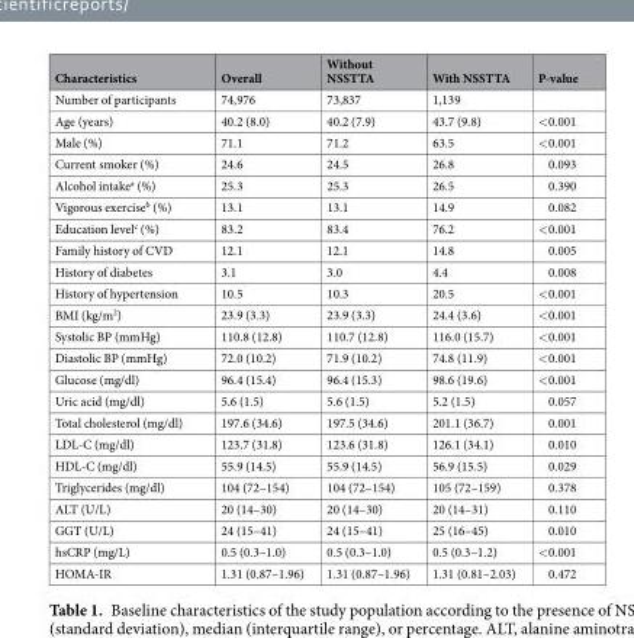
<table><thead><tr><td>Characteristics</td><td>Overall</td><td>Without NSSTTA</td><td>With NSSTTA</td><td>P-value</td></tr></thead><tbody><tr><td>Number of participants</td><td>74,976</td><td>73,837</td><td>1,139</td><td></td></tr><tr><td>Age (years)</td><td>40.2 (8.0)</td><td>40.2 (7.9)</td><td>43.7 (9.8)</td><td>&lt;0.001</td></tr><tr><td>Male (%)</td><td>71.1</td><td>71.2</td><td>63.5</td><td>&lt;0.001</td></tr><tr><td>Current smoker (%)</td><td>24.6</td><td>24.5</td><td>26.8</td><td>0.093</td></tr><tr><td>Alcohol intake<sup>a</sup> (%)</td><td>25.3</td><td>25.3</td><td>26.5</td><td>0.390</td></tr><tr><td>Vigorous exercise<sup>b</sup> (%)</td><td>13.1</td><td>13.1</td><td>14.9</td><td>0.082</td></tr><tr><td>Education level<sup>c</sup> (%)</td><td>83.2</td><td>83.4</td><td>76.2</td><td>&lt;0.001</td></tr><tr><td>Family history of CVD</td><td>12.1</td><td>12.1</td><td>14.8</td><td>0.005</td></tr><tr><td>History of diabetes</td><td>3.1</td><td>3.0</td><td>4.4</td><td>0.008</td></tr><tr><td>History of hypertension</td><td>10.5</td><td>10.3</td><td>20.5</td><td>&lt;0.001</td></tr><tr><td>BMI (kg/m<sup>2</sup>)</td><td>23.9 (3.3)</td><td>23.9 (3.3)</td><td>24.4 (3.6)</td><td>&lt;0.001</td></tr><tr><td>Systolic BP (mmHg)</td><td>110.8 (12.8)</td><td>110.7 (12.8)</td><td>116.0 (15.7)</td><td>&lt;0.001</td></tr><tr><td>Diastolic BP (mmHg)</td><td>72.0 (10.2)</td><td>71.9 (10.2)</td><td>74.8 (11.9)</td><td>&lt;0.001</td></tr><tr><td>Glucose (mg/dl)</td><td>96.4 (15.4)</td><td>96.4 (15.3)</td><td>98.6 (19.6)</td><td>&lt;0.001</td></tr><tr><td>Uric acid (mg/dl)</td><td>5.6 (1.5)</td><td>5.6 (1.5)</td><td>5.2 (1.5)</td><td>0.057</td></tr><tr><td>Total cholesterol (mg/dl)</td><td>197.6 (34.6)</td><td>197.5 (34.6)</td><td>201.1 (36.7)</td><td>0.001</td></tr><tr><td>LDL-C (mg/dl)</td><td>123.7 (31.8)</td><td>123.6 (31.8)</td><td>126.1 (34.1)</td><td>0.010</td></tr><tr><td>HDL-C (mg/dl)</td><td>55.9 (14.5)</td><td>55.9 (14.5)</td><td>56.9 (15.5)</td><td>0.029</td></tr><tr><td>Triglycerides (mg/dl)</td><td>104 (72–154)</td><td>104 (72–154)</td><td>105 (72–159)</td><td>0.378</td></tr><tr><td>ALT (U/L)</td><td>20 (14–30)</td><td>20 (14–30)</td><td>20 (14–31)</td><td>0.110</td></tr><tr><td>GGT (U/L)</td><td>24 (15–41)</td><td>24 (15–41)</td><td>25 (16–45)</td><td>0.010</td></tr><tr><td>hsCRP (mg/L)</td><td>0.5 (0.3–1.0)</td><td>0.5 (0.3–1.0)</td><td>0.5 (0.3–1.2)</td><td>&lt;0.001</td></tr><tr><td>HOMA-IR</td><td>1.31 (0.87–1.96)</td><td>1.31 (0.87–1.96)</td><td>1.31 (0.81–2.03)</td><td>0.472</td></tr></tbody></table>